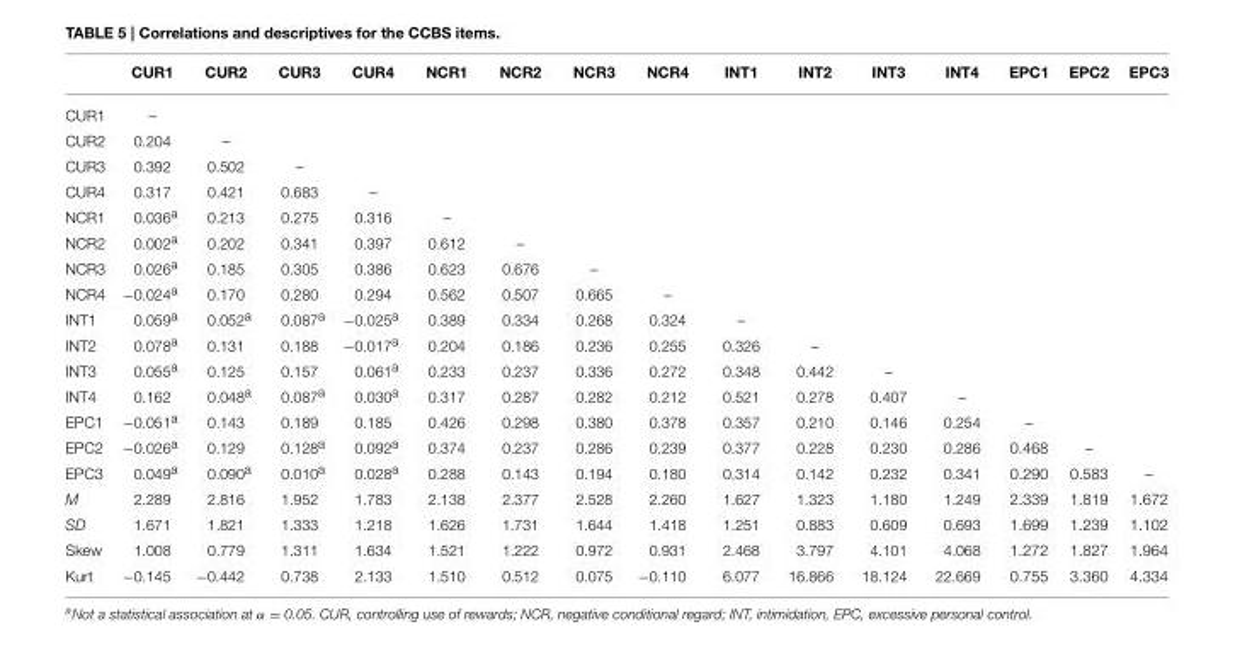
<table><thead><tr><td></td><td>CUR1</td><td>CUR2</td><td>CUR3</td><td>CUR4</td><td>NCR1</td><td>NCR2</td><td>NCR3</td><td>NCR4</td><td>INT1</td><td>INT2</td><td>INT3</td><td>INT4</td><td>EPC1</td><td>EPC2</td><td>EPC3</td></tr></thead><tbody><tr><td>CUR1</td><td>–</td><td></td><td></td><td></td><td></td><td></td><td></td><td></td><td></td><td></td><td></td><td></td><td></td><td></td><td></td></tr><tr><td>CUR2</td><td>0.204</td><td>–</td><td></td><td></td><td></td><td></td><td></td><td></td><td></td><td></td><td></td><td></td><td></td><td></td><td></td></tr><tr><td>CUR3</td><td>0.392</td><td>0.502</td><td>–</td><td></td><td></td><td></td><td></td><td></td><td></td><td></td><td></td><td></td><td></td><td></td><td></td></tr><tr><td>CUR4</td><td>0.317</td><td>0.421</td><td>0.683</td><td>–</td><td></td><td></td><td></td><td></td><td></td><td></td><td></td><td></td><td></td><td></td><td></td></tr><tr><td>NCR1</td><td>0.036<sup>a</sup></td><td>0.213</td><td>0.275</td><td>0.316</td><td>–</td><td></td><td></td><td></td><td></td><td></td><td></td><td></td><td></td><td></td><td></td></tr><tr><td>NCR2</td><td>0.002<sup>a</sup></td><td>0.202</td><td>0.341</td><td>0.397</td><td>0.612</td><td>–</td><td></td><td></td><td></td><td></td><td></td><td></td><td></td><td></td><td></td></tr><tr><td>NCR3</td><td>0.026<sup>a</sup></td><td>0.185</td><td>0.305</td><td>0.386</td><td>0.623</td><td>0.676</td><td>–</td><td></td><td></td><td></td><td></td><td></td><td></td><td></td><td></td></tr><tr><td>NCR4</td><td>−0.024<sup>a</sup></td><td>0.170</td><td>0.280</td><td>0.294</td><td>0.562</td><td>0.507</td><td>0.665</td><td>–</td><td></td><td></td><td></td><td></td><td></td><td></td><td></td></tr><tr><td>INT1</td><td>0.059<sup>a</sup></td><td>0.052<sup>a</sup></td><td>0.087<sup>a</sup></td><td>−0.025<sup>a</sup></td><td>0.389</td><td>0.334</td><td>0.268</td><td>0.324</td><td>–</td><td></td><td></td><td></td><td></td><td></td><td></td></tr><tr><td>INT2</td><td>0.078<sup>a</sup></td><td>0.131</td><td>0.188</td><td>−0.017<sup>a</sup></td><td>0.204</td><td>0.186</td><td>0.236</td><td>0.255</td><td>0.326</td><td>–</td><td></td><td></td><td></td><td></td><td></td></tr><tr><td>INT3</td><td>0.055<sup>a</sup></td><td>0.125</td><td>0.157</td><td>0.061<sup>a</sup></td><td>0.233</td><td>0.237</td><td>0.336</td><td>0.272</td><td>0.348</td><td>0.442</td><td>–</td><td></td><td></td><td></td><td></td></tr><tr><td>INT4</td><td>0.162</td><td>0.048<sup>a</sup></td><td>0.087<sup>a</sup></td><td>0.030<sup>a</sup></td><td>0.317</td><td>0.287</td><td>0.282</td><td>0.212</td><td>0.521</td><td>0.278</td><td>0.407</td><td>–</td><td></td><td></td><td></td></tr><tr><td>EPC1</td><td>−0.051<sup>a</sup></td><td>0.143</td><td>0.189</td><td>0.185</td><td>0.426</td><td>0.298</td><td>0.380</td><td>0.378</td><td>0.357</td><td>0.210</td><td>0.146</td><td>0.254</td><td>–</td><td></td><td></td></tr><tr><td>EPC2</td><td>−0.026<sup>a</sup></td><td>0.129</td><td>0.128<sup>a</sup></td><td>0.092<sup>a</sup></td><td>0.374</td><td>0.237</td><td>0.286</td><td>0.239</td><td>0.377</td><td>0.228</td><td>0.230</td><td>0.286</td><td>0.468</td><td>–</td><td></td></tr><tr><td>EPC3</td><td>0.049<sup>a</sup></td><td>0.090<sup>a</sup></td><td>0.010<sup>a</sup></td><td>0.028<sup>a</sup></td><td>0.288</td><td>0.143</td><td>0.194</td><td>0.180</td><td>0.314</td><td>0.142</td><td>0.232</td><td>0.341</td><td>0.290</td><td>0.583</td><td>–</td></tr><tr><td>M</td><td>2.289</td><td>2.816</td><td>1.952</td><td>1.783</td><td>2.138</td><td>2.377</td><td>2.528</td><td>2.260</td><td>1.627</td><td>1.323</td><td>1.180</td><td>1.249</td><td>2.339</td><td>1.819</td><td>1.672</td></tr><tr><td>SD</td><td>1.671</td><td>1.821</td><td>1.333</td><td>1.218</td><td>1.626</td><td>1.731</td><td>1.644</td><td>1.418</td><td>1.251</td><td>0.883</td><td>0.609</td><td>0.693</td><td>1.699</td><td>1.239</td><td>1.102</td></tr><tr><td>Skew</td><td>1.008</td><td>0.779</td><td>1.311</td><td>1.634</td><td>1.521</td><td>1.222</td><td>0.972</td><td>0.931</td><td>2.468</td><td>3.797</td><td>4.101</td><td>4.068</td><td>1.272</td><td>1.827</td><td>1.964</td></tr><tr><td>Kurt</td><td>−0.145</td><td>−0.442</td><td>0.738</td><td>2.133</td><td>1.510</td><td>0.512</td><td>0.075</td><td>−0.110</td><td>6.077</td><td>16.866</td><td>18.124</td><td>22.669</td><td>0.755</td><td>3.360</td><td>4.334</td></tr></tbody></table>